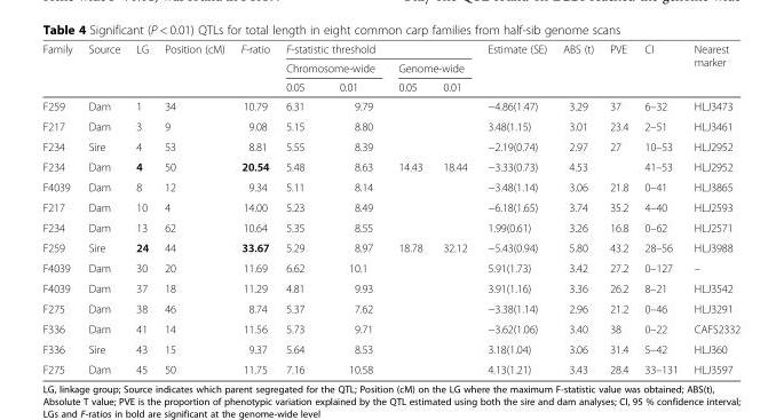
<table><thead><tr><td rowspan="3">Family</td><td rowspan="3">Source</td><td rowspan="3">LG</td><td rowspan="3">Position (cM)</td><td rowspan="3">F-ratio</td><td colspan="4">F-statistic threshold</td><td rowspan="3">Estimate (SE)</td><td rowspan="3">ABS (t)</td><td rowspan="3">PVE</td><td rowspan="3">CI</td><td rowspan="3">Nearest marker</td></tr><tr><td colspan="2">Chromosome-wide</td><td colspan="2">Genome-wide</td></tr><tr><td>0.05</td><td>0.01</td><td>0.05</td><td>0.01</td></tr></thead><tbody><tr><td>F259</td><td>Dam</td><td>1</td><td>34</td><td>10.79</td><td>6.31</td><td>9.79</td><td></td><td></td><td>−4.86(1.47)</td><td>3.29</td><td>37</td><td>6–32</td><td>HLJ3473</td></tr><tr><td>F217</td><td>Dam</td><td>3</td><td>9</td><td>9.08</td><td>5.15</td><td>8.80</td><td></td><td></td><td>3.48(1.15)</td><td>3.01</td><td>23.4</td><td>2–51</td><td>HLJ3461</td></tr><tr><td>F234</td><td>Sire</td><td>4</td><td>53</td><td>8.81</td><td>5.55</td><td>8.39</td><td></td><td></td><td>−2.19(0.74)</td><td>2.97</td><td rowspan="2">27</td><td>10–53</td><td>HLJ2952</td></tr><tr><td>F234</td><td>Dam</td><td>4</td><td>50</td><td>20.54</td><td>5.48</td><td>8.63</td><td>14.43</td><td>18.44</td><td>−3.33(0.73)</td><td>4.53</td><td>41–53</td><td>HLJ2952</td></tr><tr><td>F4039</td><td>Dam</td><td>8</td><td>12</td><td>9.34</td><td>5.11</td><td>8.14</td><td></td><td></td><td>−3.48(1.14)</td><td>3.06</td><td>21.8</td><td>0–41</td><td>HLJ3865</td></tr><tr><td>F217</td><td>Dam</td><td>10</td><td>4</td><td>14.00</td><td>5.23</td><td>8.49</td><td></td><td></td><td>−6.18(1.65)</td><td>3.74</td><td>35.2</td><td>4–40</td><td>HLJ2593</td></tr><tr><td>F234</td><td>Dam</td><td>13</td><td>62</td><td>10.64</td><td>5.35</td><td>8.55</td><td></td><td></td><td>1.99(0.61)</td><td>3.26</td><td>16.8</td><td>0–62</td><td>HLJ2571</td></tr><tr><td>F259</td><td>Sire</td><td>24</td><td>44</td><td>33.67</td><td>5.29</td><td>8.97</td><td>18.78</td><td>32.12</td><td>−5.43(0.94)</td><td>5.80</td><td>43.2</td><td>28–56</td><td>HLJ3988</td></tr><tr><td>F4039</td><td>Dam</td><td>30</td><td>20</td><td>11.69</td><td>6.62</td><td>10.1</td><td></td><td></td><td>5.91(1.73)</td><td>3.42</td><td>27.2</td><td>0–127</td><td>–</td></tr><tr><td>F4039</td><td>Dam</td><td>37</td><td>18</td><td>11.29</td><td>4.81</td><td>9.93</td><td></td><td></td><td>3.91(1.16)</td><td>3.36</td><td>26.2</td><td>8–21</td><td>HLJ3542</td></tr><tr><td>F275</td><td>Dam</td><td>38</td><td>46</td><td>8.74</td><td>5.37</td><td>7.62</td><td></td><td></td><td>−3.38(1.14)</td><td>2.96</td><td>21.2</td><td>0–46</td><td>HLJ3291</td></tr><tr><td>F336</td><td>Dam</td><td>41</td><td>14</td><td>11.56</td><td>5.73</td><td>9.71</td><td></td><td></td><td>−3.62(1.06)</td><td>3.40</td><td>38</td><td>0–22</td><td>CAFS2332</td></tr><tr><td>F336</td><td>Sire</td><td>43</td><td>15</td><td>9.37</td><td>5.64</td><td>8.53</td><td></td><td></td><td>3.18(1.04)</td><td>3.06</td><td>31.4</td><td>5–42</td><td>HLJ360</td></tr><tr><td>F275</td><td>Dam</td><td>45</td><td>50</td><td>11.75</td><td>7.16</td><td>10.58</td><td></td><td></td><td>4.13(1.21)</td><td>3.43</td><td>28.4</td><td>33–131</td><td>HLJ3597</td></tr></tbody></table>